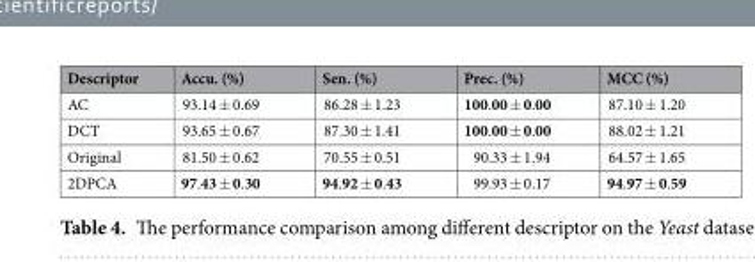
<table><thead><tr><td>Descriptor</td><td>Accu. (%)</td><td>Sen. (%)</td><td>Prec. (%)</td><td>MCC (%)</td></tr></thead><tbody><tr><td>AC</td><td>93.14 ± 0.69</td><td>86.28 ± 1.23</td><td>100.00 ± 0.00</td><td>87.10 ± 1.20</td></tr><tr><td>DCT</td><td>93.65 ± 0.67</td><td>87.30 ± 1.41</td><td>100.00 ± 0.00</td><td>88.02 ± 1.21</td></tr><tr><td>Original</td><td>81.50 ± 0.62</td><td>70.55 ± 0.51</td><td>90.33 ± 1.94</td><td>64.57 ± 1.65</td></tr><tr><td>2DPCA</td><td>97.43 ± 0.30</td><td>94.92 ± 0.43</td><td>99.93 ± 0.17</td><td>94.97 ± 0.59</td></tr></tbody></table>